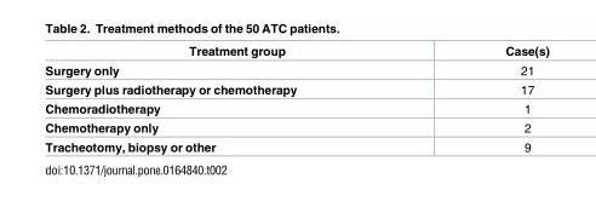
<table><thead><tr><td>Treatment group</td><td>Case(s)</td></tr></thead><tbody><tr><td>Surgery only</td><td>21</td></tr><tr><td>Surgery plus radiotherapy or chemotherapy</td><td>17</td></tr><tr><td>Chemoradiotherapy</td><td>1</td></tr><tr><td>Chemotherapy only</td><td>2</td></tr><tr><td>Tracheotomy, biopsy or other</td><td>9</td></tr></tbody></table>